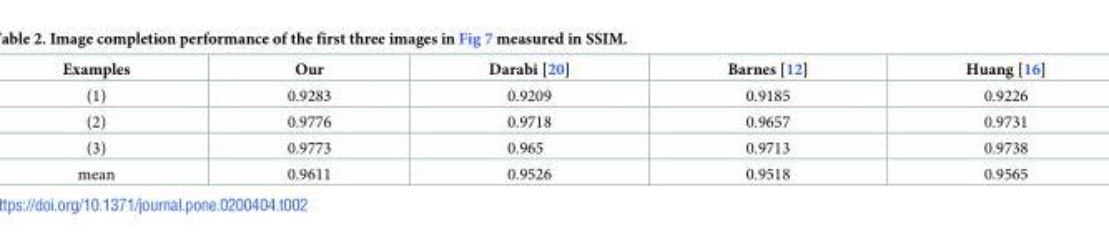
<table><thead><tr><td>Examples</td><td>Our</td><td>Darabi [20]</td><td>Barnes [12]</td><td>Huang [16]</td></tr></thead><tbody><tr><td>(1)</td><td>0.9283</td><td>0.9209</td><td>0.9185</td><td>0.9226</td></tr><tr><td>(2)</td><td>0.9776</td><td>0.9718</td><td>0.9657</td><td>0.9731</td></tr><tr><td>(3)</td><td>0.9773</td><td>0.965</td><td>0.9713</td><td>0.9738</td></tr><tr><td>mean</td><td>0.9611</td><td>0.9526</td><td>0.9518</td><td>0.9565</td></tr></tbody></table>